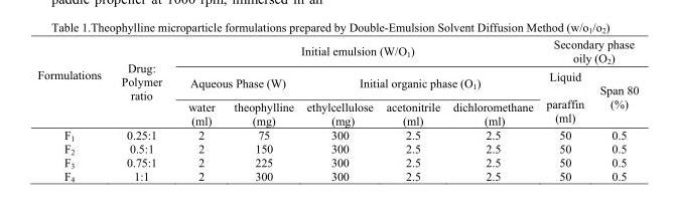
<table><thead><tr><td rowspan="3">Formulations</td><td rowspan="3">Drug: Polymer ratio</td><td colspan="5">Initial emulsion (W/O<sub>1</sub>)</td><td colspan="2">Secondary phase oily (O<sub>2</sub>)</td></tr><tr><td colspan="2">Aqueous Phase (W)</td><td colspan="3">Initial organic phase (O<sub>1</sub>)</td><td rowspan="2">Liquid paraffin (ml)</td><td rowspan="2">Span 80 (%)</td></tr><tr><td>water (ml)</td><td>theophylline (mg)</td><td>ethylcellulose (mg)</td><td>acetonitrile (ml)</td><td>dichloromethane (ml)</td></tr></thead><tbody><tr><td>F<sub>1</sub> F<sub>2</sub> F<sub>3</sub> F<sub>4</sub></td><td>0.25:1 0.5:1 0.75:1 1:1</td><td>2 2 2 2</td><td>75 150 225 300</td><td>300 300 300 300</td><td>2.5 2.5 2.5 2.5</td><td>2.5 2.5 2.5 2.5</td><td>50 50 50 50</td><td>0.5 0.5 0.5 0.5</td></tr></tbody></table>